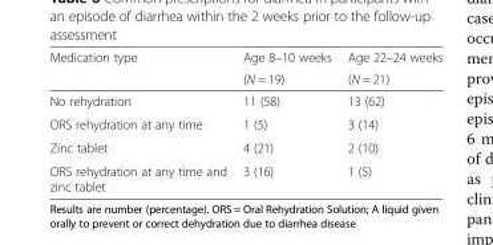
<table><thead><tr><td rowspan="2">Medication type</td><td rowspan="2">Age 8–10 weeks (N = 19)</td><td rowspan="2">Age 22–24 weeks (N = 21)</td></tr><tr></tr></thead><tbody><tr><td>No rehydration</td><td>11 (58)</td><td>13 (62)</td></tr><tr><td>ORS rehydration at any time</td><td>1 (5)</td><td>3 (14)</td></tr><tr><td>Zinc tablet</td><td>4 (21)</td><td>2 (10)</td></tr><tr><td>ORS rehydration at any time and zinc tablet</td><td>3 (16)</td><td>1 (5)</td></tr></tbody></table>